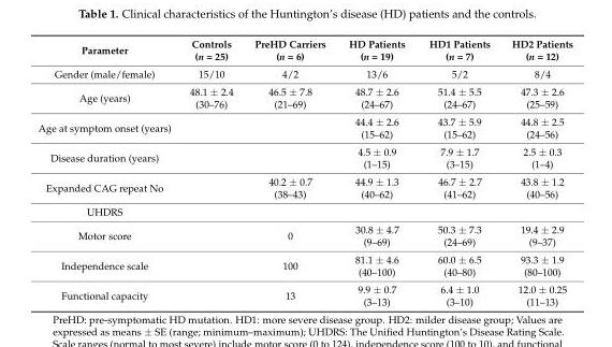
<table><thead><tr><td>Parameter</td><td>Controls (n = 25)</td><td>PreHD Carriers (n = 6)</td><td>HD Patients (n = 19)</td><td>HD1 Patients (n = 7)</td><td>HD2 Patients (n = 12)</td></tr></thead><tbody><tr><td>Gender (male/female)</td><td>15/10</td><td>4/2</td><td>13/6</td><td>5/2</td><td>8/4</td></tr><tr><td>Age (years)</td><td>48.1 ± 2.4 (30–76)</td><td>46.5 ± 7.8 (21–69)</td><td>48.7 ± 2.6 (24–67)</td><td>51.4 ± 5.5 (24–67)</td><td>47.3 ± 2.6 (25–59)</td></tr><tr><td>Age at symptom onset (years)</td><td></td><td></td><td>44.4 ± 2.6 (15–62)</td><td>43.7 ± 5.9 (15–62)</td><td>44.8 ± 2.5 (24–56)</td></tr><tr><td>Disease duration (years)</td><td></td><td></td><td>4.5 ± 0.9 (1–15)</td><td>7.9 ± 1.7 (3–15)</td><td>2.5 ± 0.3 (1–4)</td></tr><tr><td>Expanded CAG repeat No</td><td></td><td>40.2 ± 0.7 (38–43)</td><td>44.9 ± 1.3 (40–62)</td><td>46.7 ± 2.7 (41–62)</td><td>43.8 ± 1.2 (40–56)</td></tr><tr><td colspan="6">UHDRS</td></tr><tr><td>Motor score</td><td></td><td>0</td><td>30.8 ± 4.7 (9–69)</td><td>50.3 ± 7.3 (24–69)</td><td>19.4 ± 2.9 (9–37)</td></tr><tr><td>Independence scale</td><td></td><td>100</td><td>81.1 ± 4.6 (40–100)</td><td>60.0 ± 6.5 (40–80)</td><td>93.3 ± 1.9 (80–100)</td></tr><tr><td>Functional capacity</td><td></td><td>13</td><td>9.9 ± 0.7 (3–13)</td><td>6.4 ± 1.0 (3–10)</td><td>12.0 ± 0.25 (11–13)</td></tr></tbody></table>